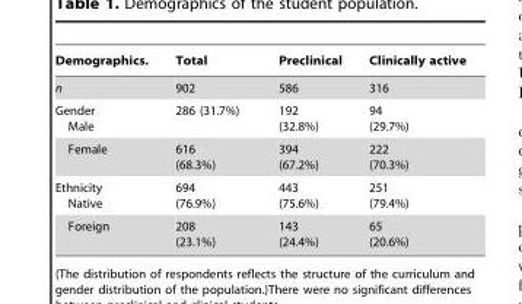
<table><thead><tr><td>Demographics.</td><td>Total</td><td>Preclinical</td><td>Clinically active</td></tr></thead><tbody><tr><td>n</td><td>902</td><td>586</td><td>316</td></tr><tr><td>Gender Male</td><td>286 (31.7%)</td><td>192 (32.8%)</td><td>94 (29.7%)</td></tr><tr><td>Female</td><td>616 (68.3%)</td><td>394 (67.2%)</td><td>222 (70.3%)</td></tr><tr><td>Ethnicity Native</td><td>694 (76.9%)</td><td>443 (75.6%)</td><td>251 (79.4%)</td></tr><tr><td>Foreign</td><td>208 (23.1%)</td><td>143 (24.4%)</td><td>65 (20.6%)</td></tr></tbody></table>